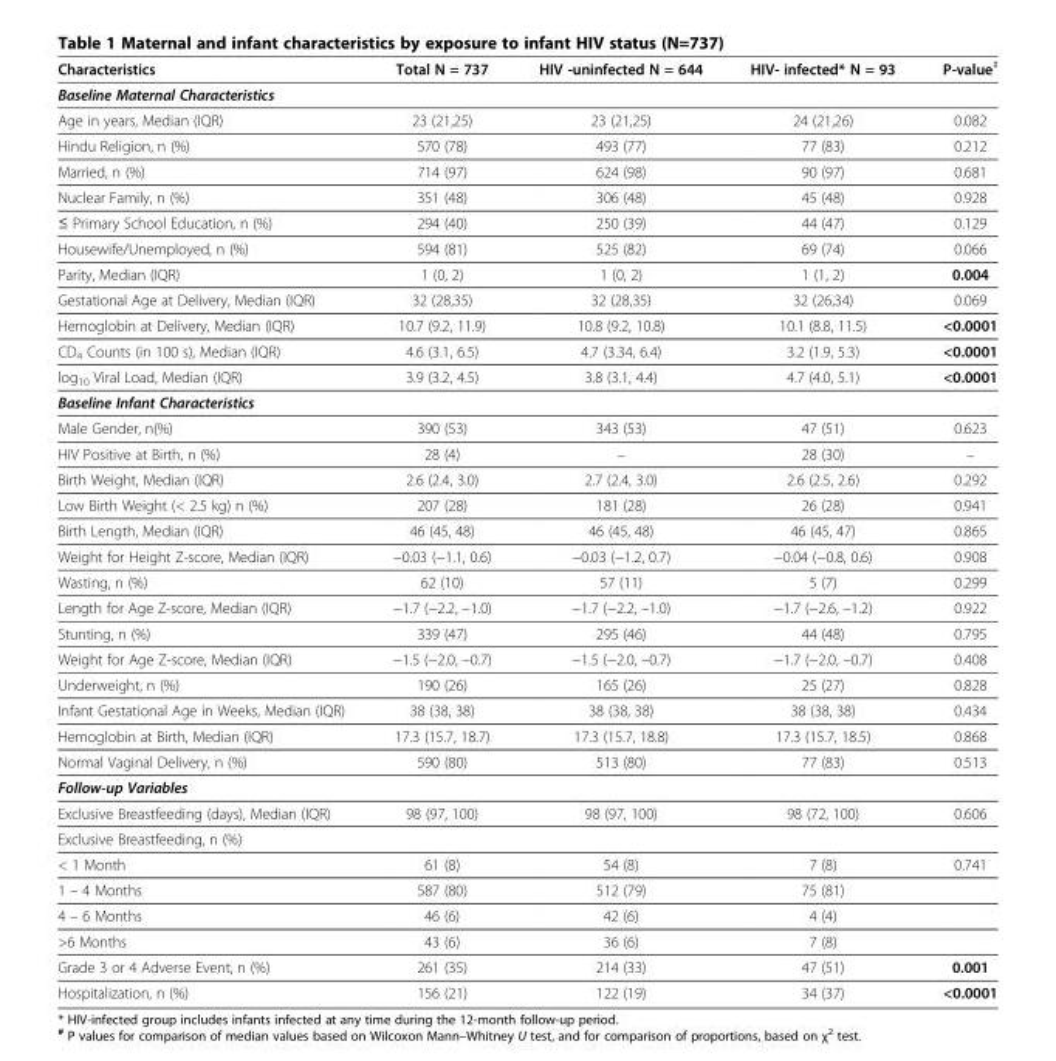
<table><thead><tr><td>Characteristics</td><td>Total N = 737</td><td>HIV -uninfected N = 644</td><td>HIV- infected* N = 93</td><td>P-value<sup>#</sup></td></tr></thead><tbody><tr><td colspan="5">Baseline Maternal Characteristics</td></tr><tr><td>Age in years, Median (IQR)</td><td>23 (21,25)</td><td>23 (21,25)</td><td>24 (21,26)</td><td>0.082</td></tr><tr><td>Hindu Religion, n (%)</td><td>570 (78)</td><td>493 (77)</td><td>77 (83)</td><td>0.212</td></tr><tr><td>Married, n (%)</td><td>714 (97)</td><td>624 (98)</td><td>90 (97)</td><td>0.681</td></tr><tr><td>Nuclear Family, n (%)</td><td>351 (48)</td><td>306 (48)</td><td>45 (48)</td><td>0.928</td></tr><tr><td>≤ Primary School Education, n (%)</td><td>294 (40)</td><td>250 (39)</td><td>44 (47)</td><td>0.129</td></tr><tr><td>Housewife/Unemployed, n (%)</td><td>594 (81)</td><td>525 (82)</td><td>69 (74)</td><td>0.066</td></tr><tr><td>Parity, Median (IQR)</td><td>1 (0, 2)</td><td>1 (0, 2)</td><td>1 (1, 2)</td><td>0.004</td></tr><tr><td>Gestational Age at Delivery, Median (IQR)</td><td>32 (28,35)</td><td>32 (28,35)</td><td>32 (26,34)</td><td>0.069</td></tr><tr><td>Hemoglobin at Delivery, Median (IQR)</td><td>10.7 (9.2, 11.9)</td><td>10.8 (9.2, 10.8)</td><td>10.1 (8.8, 11.5)</td><td>&lt;0.0001</td></tr><tr><td>CD<sub>4</sub> Counts (in 100 s), Median (IQR)</td><td>4.6 (3.1, 6.5)</td><td>4.7 (3.34, 6.4)</td><td>3.2 (1.9, 5.3)</td><td>&lt;0.0001</td></tr><tr><td>log<sub>10</sub> Viral Load, Median (IQR)</td><td>3.9 (3.2, 4.5)</td><td>3.8 (3.1, 4.4)</td><td>4.7 (4.0, 5.1)</td><td>&lt;0.0001</td></tr><tr><td colspan="5">Baseline Infant Characteristics</td></tr><tr><td>Male Gender, n(%)</td><td>390 (53)</td><td>343 (53)</td><td>47 (51)</td><td>0.623</td></tr><tr><td>HIV Positive at Birth, n (%)</td><td>28 (4)</td><td>–</td><td>28 (30)</td><td>–</td></tr><tr><td>Birth Weight, Median (IQR)</td><td>2.6 (2.4, 3.0)</td><td>2.7 (2.4, 3.0)</td><td>2.6 (2.5, 2.6)</td><td>0.292</td></tr><tr><td>Low Birth Weight (&lt; 2.5 kg) n (%)</td><td>207 (28)</td><td>181 (28)</td><td>26 (28)</td><td>0.941</td></tr><tr><td>Birth Length, Median (IQR)</td><td>46 (45, 48)</td><td>46 (45, 48)</td><td>46 (45, 47)</td><td>0.865</td></tr><tr><td>Weight for Height Z-score, Median (IQR)</td><td>−0.03 (−1.1, 0.6)</td><td>−0.03 (−1.2, 0.7)</td><td>−0.04 (−0.8, 0.6)</td><td>0.908</td></tr><tr><td>Wasting, n (%)</td><td>62 (10)</td><td>57 (11)</td><td>5 (7)</td><td>0.299</td></tr><tr><td>Length for Age Z-score, Median (IQR)</td><td>−1.7 (−2.2, –1.0)</td><td>−1.7 (−2.2, –1.0)</td><td>−1.7 (−2.6, –1.2)</td><td>0.922</td></tr><tr><td>Stunting, n (%)</td><td>339 (47)</td><td>295 (46)</td><td>44 (48)</td><td>0.795</td></tr><tr><td>Weight for Age Z-score, Median (IQR)</td><td>−1.5 (−2.0, –0.7)</td><td>−1.5 (−2.0, –0.7)</td><td>−1.7 (−2.0, –0.7)</td><td>0.408</td></tr><tr><td>Underweight, n (%)</td><td>190 (26)</td><td>165 (26)</td><td>25 (27)</td><td>0.828</td></tr><tr><td>Infant Gestational Age in Weeks, Median (IQR)</td><td>38 (38, 38)</td><td>38 (38, 38)</td><td>38 (38, 38)</td><td>0.434</td></tr><tr><td>Hemoglobin at Birth, Median (IQR)</td><td>17.3 (15.7, 18.7)</td><td>17.3 (15.7, 18.8)</td><td>17.3 (15.7, 18.5)</td><td>0.868</td></tr><tr><td>Normal Vaginal Delivery, n (%)</td><td>590 (80)</td><td>513 (80)</td><td>77 (83)</td><td>0.513</td></tr><tr><td colspan="5">Follow-up Variables</td></tr><tr><td>Exclusive Breastfeeding (days), Median (IQR)</td><td>98 (97, 100)</td><td>98 (97, 100)</td><td>98 (72, 100)</td><td>0.606</td></tr><tr><td colspan="5">Exclusive Breastfeeding, n (%)</td></tr><tr><td>&lt; 1 Month</td><td>61 (8)</td><td>54 (8)</td><td>7 (8)</td><td>0.741</td></tr><tr><td>1 – 4 Months</td><td>587 (80)</td><td>512 (79)</td><td>75 (81)</td><td></td></tr><tr><td>4 – 6 Months</td><td>46 (6)</td><td>42 (6)</td><td>4 (4)</td><td></td></tr><tr><td>&gt;6 Months</td><td>43 (6)</td><td>36 (6)</td><td>7 (8)</td><td></td></tr><tr><td>Grade 3 or 4 Adverse Event, n (%)</td><td>261 (35)</td><td>214 (33)</td><td>47 (51)</td><td>0.001</td></tr><tr><td>Hospitalization, n (%)</td><td>156 (21)</td><td>122 (19)</td><td>34 (37)</td><td>&lt;0.0001</td></tr></tbody></table>